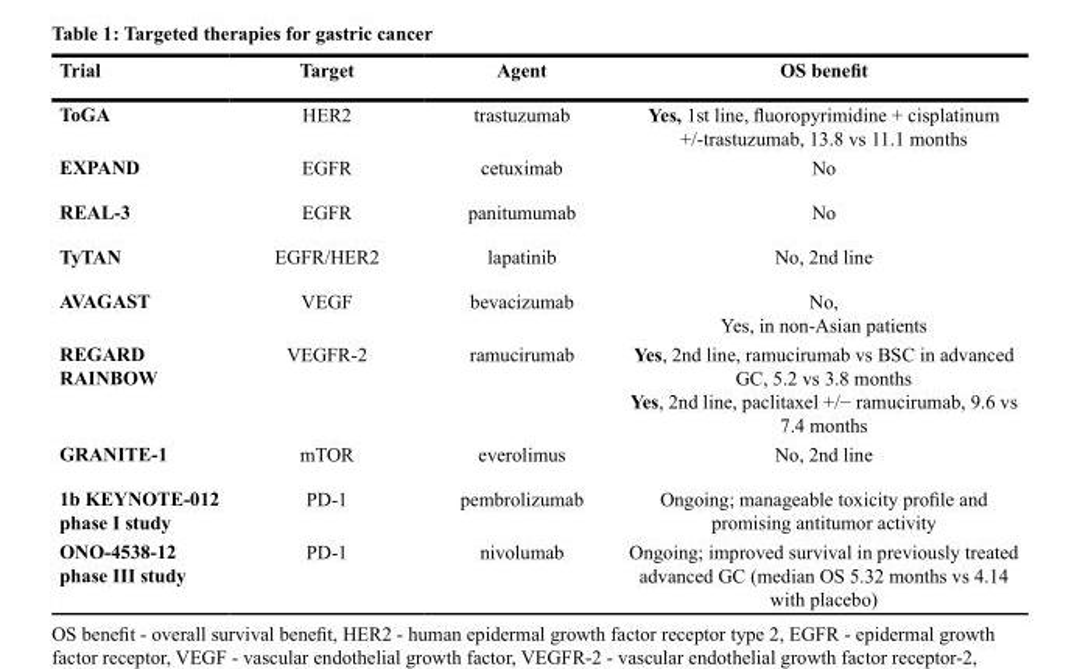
<table><thead><tr><td>Trial</td><td>Target</td><td>Agent</td><td>OS benefit</td></tr></thead><tbody><tr><td>ToGA</td><td>HER2</td><td>trastuzumab</td><td>Yes, 1st line, fluoropyrimidine + cisplatinum +/-trastuzumab, 13.8 vs 11.1 months</td></tr><tr><td>EXPAND</td><td>EGFR</td><td>cetuximab</td><td>No</td></tr><tr><td>REAL-3</td><td>EGFR</td><td>panitumumab</td><td>No</td></tr><tr><td>TyTAN</td><td>EGFR/HER2</td><td>lapatinib</td><td>No, 2nd line</td></tr><tr><td>AVAGAST</td><td>VEGF</td><td>bevacizumab</td><td>No, Yes, in non-Asian patients</td></tr><tr><td>REGARD RAINBOW</td><td>VEGFR-2</td><td>ramucirumab</td><td>Yes, 2nd line, ramucirumab vs BSC in advanced GC, 5.2 vs 3.8 months Yes, 2nd line, paclitaxel +/− ramucirumab, 9.6 vs 7.4 months</td></tr><tr><td>GRANITE-1</td><td>mTOR</td><td>everolimus</td><td>No, 2nd line</td></tr><tr><td>1b KEYNOTE-012 phase I study</td><td>PD-1</td><td>pembrolizumab</td><td>Ongoing; manageable toxicity profile and promising antitumor activity</td></tr><tr><td>ONO-4538-12 phase III study</td><td>PD-1</td><td>nivolumab</td><td>Ongoing; improved survival in previously treated advanced GC (median OS 5.32 months vs 4.14 with placebo)</td></tr></tbody></table>